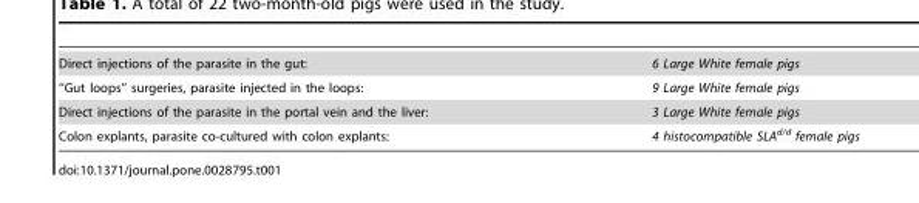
<table><tbody><tr><td>Direct injections of the parasite in the gut:</td><td>6 Large White female pigs</td></tr><tr><td>‘‘Gut loops’’ surgeries, parasite injected in the loops:</td><td>9 Large White female pigs</td></tr><tr><td>Direct injections of the parasite in the portal vein and the liver:</td><td>3 Large White female pigs</td></tr><tr><td>Colon explants, parasite co-cultured with colon explants:</td><td>4 histocompatible SLA<sup>d/d</sup> female pigs</td></tr></tbody></table>